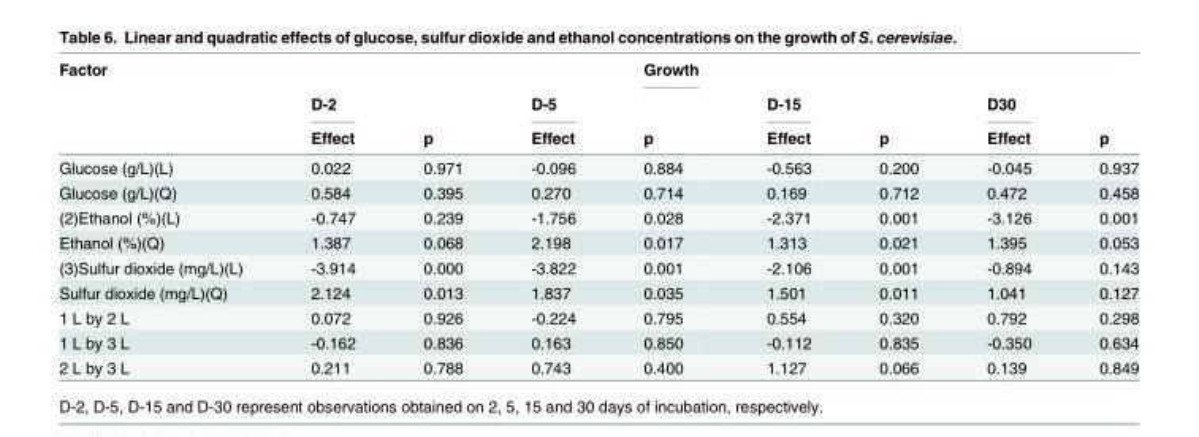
<table><thead><tr><td rowspan="3">Factor</td><td rowspan="3">D-2 Effect</td><td rowspan="3">p</td><td rowspan="3">D-5 Effect</td><td rowspan="3">Growth p</td><td rowspan="3">D-15 Effect</td><td rowspan="3">p</td><td rowspan="3">D30 Effect</td><td rowspan="3">p</td></tr><tr></tr><tr></tr></thead><tbody><tr><td>Glucose (g/L)(L)</td><td>0.022</td><td>0.971</td><td>-0.096</td><td>0.884</td><td>-0.563</td><td>0.200</td><td>-0.045</td><td>0.937</td></tr><tr><td>Glucose (g/L)(Q)</td><td>0.584</td><td>0.395</td><td>0.270</td><td>0.714</td><td>0.169</td><td>0.712</td><td>0.472</td><td>0.458</td></tr><tr><td>(2)Ethanol (%)(L)</td><td>-0.747</td><td>0.239</td><td>-1.756</td><td>0.028</td><td>-2.371</td><td>0.001</td><td>-3.126</td><td>0.001</td></tr><tr><td>Ethanol (%)(Q)</td><td>1.387</td><td>0.068</td><td>2.198</td><td>0.017</td><td>1.313</td><td>0.021</td><td>1.395</td><td>0.053</td></tr><tr><td>(3)Sulfur dioxide (mg/L)(L)</td><td>-3.914</td><td>0.000</td><td>-3.822</td><td>0.001</td><td>-2.106</td><td>0.001</td><td>-0.894</td><td>0.143</td></tr><tr><td>Sulfur dioxide (mg/L)(Q)</td><td>2.124</td><td>0.013</td><td>1.837</td><td>0.035</td><td>1.501</td><td>0.011</td><td>1.041</td><td>0.127</td></tr><tr><td>1 L by 2 L</td><td>0.072</td><td>0.926</td><td>-0.224</td><td>0.795</td><td>0.554</td><td>0.320</td><td>0.792</td><td>0.298</td></tr><tr><td>1 L by 3 L</td><td>-0.162</td><td>0.836</td><td>0.163</td><td>0.850</td><td>-0.112</td><td>0.835</td><td>-0.350</td><td>0.634</td></tr><tr><td>2 L by 3 L</td><td>0.211</td><td>0.788</td><td>0.743</td><td>0.400</td><td>1.127</td><td>0.066</td><td>0.139</td><td>0.849</td></tr></tbody></table>